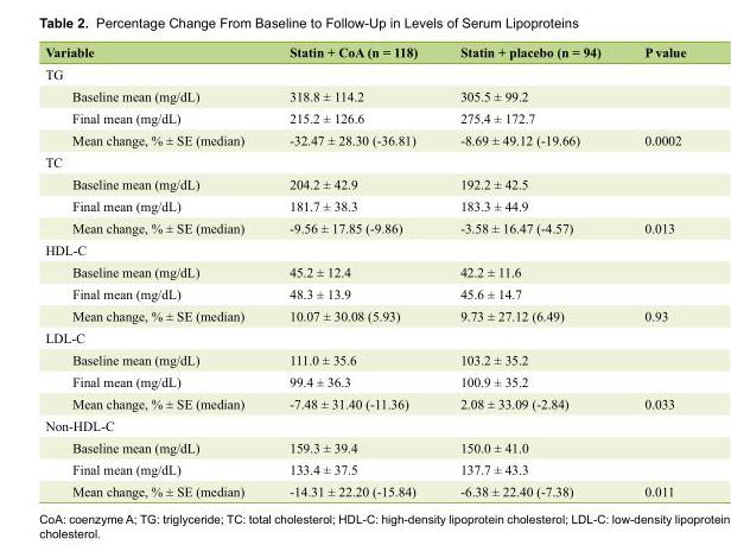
<table><thead><tr><td>Variable</td><td>Statin + CoA (n = 118)</td><td>Statin + placebo (n = 94)</td><td>P value</td></tr></thead><tbody><tr><td colspan="4">TG</td></tr><tr><td>Baseline mean (mg/dL)</td><td>318.8 ± 114.2</td><td>305.5 ± 99.2</td><td></td></tr><tr><td>Final mean (mg/dL)</td><td>215.2 ± 126.6</td><td>275.4 ± 172.7</td><td></td></tr><tr><td>Mean change, % ± SE (median)</td><td>-32.47 ± 28.30 (-36.81)</td><td>-8.69 ± 49.12 (-19.66)</td><td>0.0002</td></tr><tr><td colspan="4">TC</td></tr><tr><td>Baseline mean (mg/dL)</td><td>204.2 ± 42.9</td><td>192.2 ± 42.5</td><td></td></tr><tr><td>Final mean (mg/dL)</td><td>181.7 ± 38.3</td><td>183.3 ± 44.9</td><td></td></tr><tr><td>Mean change, % ± SE (median)</td><td>-9.56 ± 17.85 (-9.86)</td><td>-3.58 ± 16.47 (-4.57)</td><td>0.013</td></tr><tr><td colspan="4">HDL-C</td></tr><tr><td>Baseline mean (mg/dL)</td><td>45.2 ± 12.4</td><td>42.2 ± 11.6</td><td></td></tr><tr><td>Final mean (mg/dL)</td><td>48.3 ± 13.9</td><td>45.6 ± 14.7</td><td></td></tr><tr><td>Mean change, % ± SE (median)</td><td>10.07 ± 30.08 (5.93)</td><td>9.73 ± 27.12 (6.49)</td><td>0.93</td></tr><tr><td colspan="4">LDL-C</td></tr><tr><td>Baseline mean (mg/dL)</td><td>111.0 ± 35.6</td><td>103.2 ± 35.2</td><td></td></tr><tr><td>Final mean (mg/dL)</td><td>99.4 ± 36.3</td><td>100.9 ± 35.2</td><td></td></tr><tr><td>Mean change, % ± SE (median)</td><td>-7.48 ± 31.40 (-11.36)</td><td>2.08 ± 33.09 (-2.84)</td><td>0.033</td></tr><tr><td colspan="4">Non-HDL-C</td></tr><tr><td>Baseline mean (mg/dL)</td><td>159.3 ± 39.4</td><td>150.0 ± 41.0</td><td></td></tr><tr><td>Final mean (mg/dL)</td><td>133.4 ± 37.5</td><td>137.7 ± 43.3</td><td></td></tr><tr><td>Mean change, % ± SE (median)</td><td>-14.31 ± 22.20 (-15.84)</td><td>-6.38 ± 22.40 (-7.38)</td><td>0.011</td></tr></tbody></table>